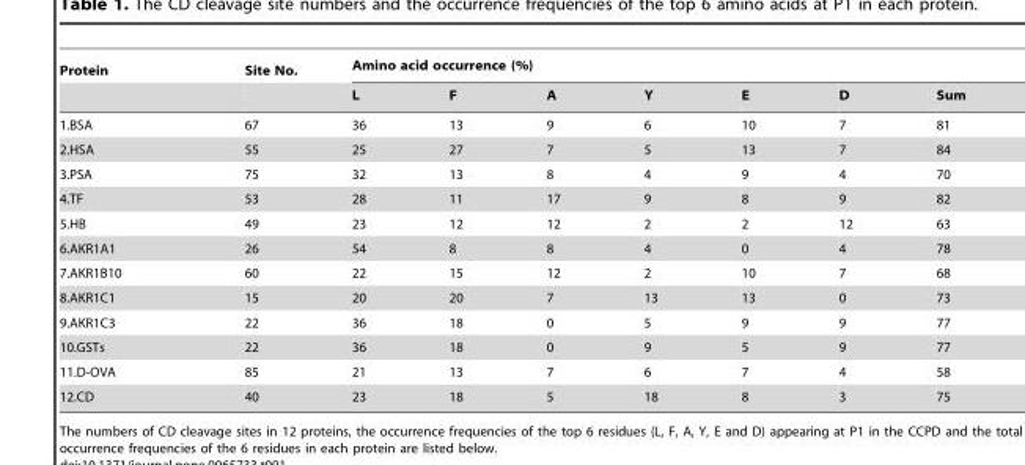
<table><thead><tr><td rowspan="2">Protein</td><td rowspan="2">Site No.</td><td colspan="7">Amino acid occurrence (%)</td></tr><tr><td>L</td><td>F</td><td>A</td><td>Y</td><td>E</td><td>D</td><td>Sum</td></tr></thead><tbody><tr><td>1.BSA</td><td>67</td><td>36</td><td>13</td><td>9</td><td>6</td><td>10</td><td>7</td><td>81</td></tr><tr><td>2.HSA</td><td>55</td><td>25</td><td>27</td><td>7</td><td>5</td><td>13</td><td>7</td><td>84</td></tr><tr><td>3.PSA</td><td>75</td><td>32</td><td>13</td><td>8</td><td>4</td><td>9</td><td>4</td><td>70</td></tr><tr><td>4.TF</td><td>53</td><td>28</td><td>11</td><td>17</td><td>9</td><td>8</td><td>9</td><td>82</td></tr><tr><td>5.HB</td><td>49</td><td>23</td><td>12</td><td>12</td><td>2</td><td>2</td><td>12</td><td>63</td></tr><tr><td>6.AKR1A1</td><td>26</td><td>54</td><td>8</td><td>8</td><td>4</td><td>0</td><td>4</td><td>78</td></tr><tr><td>7.AKR1B10</td><td>60</td><td>22</td><td>15</td><td>12</td><td>2</td><td>10</td><td>7</td><td>68</td></tr><tr><td>8.AKR1C1</td><td>15</td><td>20</td><td>20</td><td>7</td><td>13</td><td>13</td><td>0</td><td>73</td></tr><tr><td>9.AKR1C3</td><td>22</td><td>36</td><td>18</td><td>0</td><td>5</td><td>9</td><td>9</td><td>77</td></tr><tr><td>10.GSTs</td><td>22</td><td>36</td><td>18</td><td>0</td><td>9</td><td>5</td><td>9</td><td>77</td></tr><tr><td>11.D-OVA</td><td>85</td><td>21</td><td>13</td><td>7</td><td>6</td><td>7</td><td>4</td><td>58</td></tr><tr><td>12.CD</td><td>40</td><td>23</td><td>18</td><td>5</td><td>18</td><td>8</td><td>3</td><td>75</td></tr></tbody></table>